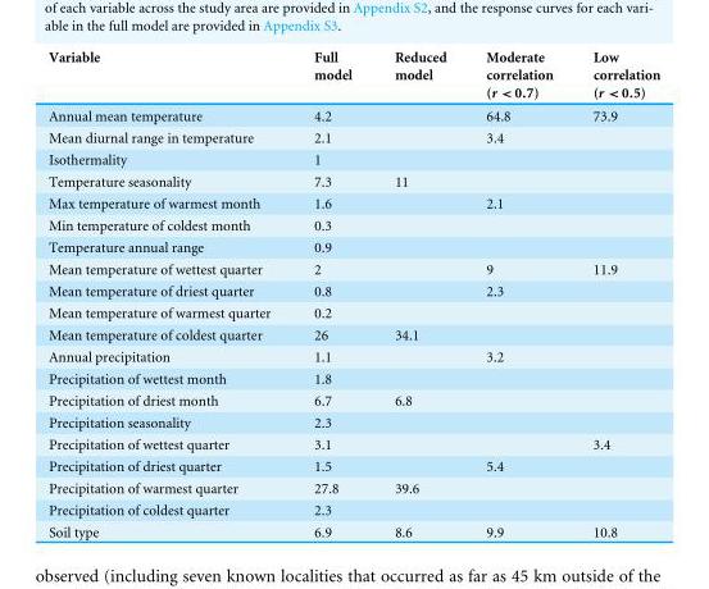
<table><thead><tr><td>Variable</td><td>Full model</td><td>Reduced model</td><td>Moderate correlation (r &lt; 0.7)</td><td>Low correlation (r &lt; 0.5)</td></tr></thead><tbody><tr><td>Annual mean temperature</td><td>4.2</td><td></td><td>64.8</td><td>73.9</td></tr><tr><td>Mean diurnal range in temperature</td><td>2.1</td><td></td><td>3.4</td><td></td></tr><tr><td>Isothermality</td><td>1</td><td></td><td></td><td></td></tr><tr><td>Temperature seasonality</td><td>7.3</td><td>11</td><td></td><td></td></tr><tr><td>Max temperature of warmest month</td><td>1.6</td><td></td><td>2.1</td><td></td></tr><tr><td>Min temperature of coldest month</td><td>0.3</td><td></td><td></td><td></td></tr><tr><td>Temperature annual range</td><td>0.9</td><td></td><td></td><td></td></tr><tr><td>Mean temperature of wettest quarter</td><td>2</td><td></td><td>9</td><td>11.9</td></tr><tr><td>Mean temperature of driest quarter</td><td>0.8</td><td></td><td>2.3</td><td></td></tr><tr><td>Mean temperature of warmest quarter</td><td>0.2</td><td></td><td></td><td></td></tr><tr><td>Mean temperature of coldest quarter</td><td>26</td><td>34.1</td><td></td><td></td></tr><tr><td>Annual precipitation</td><td>1.1</td><td></td><td>3.2</td><td></td></tr><tr><td>Precipitation of wettest month</td><td>1.8</td><td></td><td></td><td></td></tr><tr><td>Precipitation of driest month</td><td>6.7</td><td>6.8</td><td></td><td></td></tr><tr><td>Precipitation seasonality</td><td>2.3</td><td></td><td></td><td></td></tr><tr><td>Precipitation of wettest quarter</td><td>3.1</td><td></td><td></td><td>3.4</td></tr><tr><td>Precipitation of driest quarter</td><td>1.5</td><td></td><td>5.4</td><td></td></tr><tr><td>Precipitation of warmest quarter</td><td>27.8</td><td>39.6</td><td></td><td></td></tr><tr><td>Precipitation of coldest quarter</td><td>2.3</td><td></td><td></td><td></td></tr><tr><td>Soil type</td><td>6.9</td><td>8.6</td><td>9.9</td><td>10.8</td></tr></tbody></table>